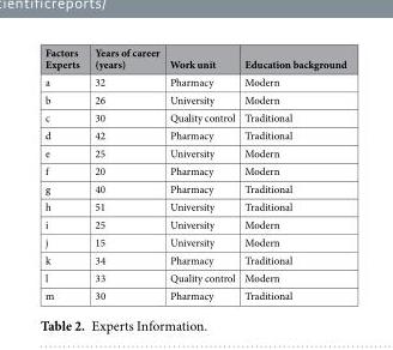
<table><thead><tr><td>Factors Experts</td><td>Years of career (years)</td><td>Work unit</td><td>Education background</td></tr></thead><tbody><tr><td>a</td><td>32</td><td>Pharmacy</td><td>Modern</td></tr><tr><td>b</td><td>26</td><td>University</td><td>Modern</td></tr><tr><td>c</td><td>30</td><td>Quality control</td><td>Traditional</td></tr><tr><td>d</td><td>42</td><td>Pharmacy</td><td>Traditional</td></tr><tr><td>e</td><td>25</td><td>University</td><td>Modern</td></tr><tr><td>f</td><td>20</td><td>Pharmacy</td><td>Modern</td></tr><tr><td>g</td><td>40</td><td>Pharmacy</td><td>Traditional</td></tr><tr><td>h</td><td>51</td><td>University</td><td>Traditional</td></tr><tr><td>i</td><td>25</td><td>University</td><td>Modern</td></tr><tr><td>j</td><td>15</td><td>University</td><td>Modern</td></tr><tr><td>k</td><td>34</td><td>Pharmacy</td><td>Traditional</td></tr><tr><td>l</td><td>33</td><td>Quality control</td><td>Modern</td></tr><tr><td>m</td><td>30</td><td>Pharmacy</td><td>Traditional</td></tr></tbody></table>